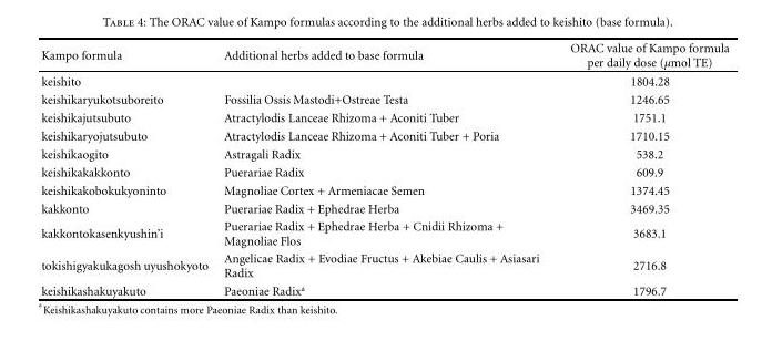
<table><thead><tr><td>Kampo formula</td><td>Additional herbs added to base formula</td><td>ORAC value of Kampo formula per daily dose (μmol TE)</td></tr></thead><tbody><tr><td>keishito</td><td></td><td>1804.28</td></tr><tr><td>keishikaryukotsuboreito</td><td>Fossilia Ossis Mastodi+Ostreae Testa</td><td>1246.65</td></tr><tr><td>keishikajutsubuto</td><td>Atractylodis Lanceae Rhizoma + Aconiti Tuber</td><td>1751.1</td></tr><tr><td>keishikaryojutsubuto</td><td>Atractylodis Lanceae Rhizoma + Aconiti Tuber + Poria</td><td>1710.15</td></tr><tr><td>keishikaogito</td><td>Astragali Radix</td><td>538.2</td></tr><tr><td>keishikakakkonto</td><td>Puerariae Radix</td><td>609.9</td></tr><tr><td>keishikakobokukyoninto</td><td>Magnoliae Cortex + Armeniacae Semen</td><td>1374.45</td></tr><tr><td>kakkonto</td><td>Puerariae Radix + Ephedrae Herba</td><td>3469.35</td></tr><tr><td>kakkontokasenkyushin’i</td><td>Puerariae Radix + Ephedrae Herba + Cnidii Rhizoma + Magnoliae Flos</td><td>3683.1</td></tr><tr><td>tokishigyakukagosh uyushokyoto</td><td>Angelicae Radix + Evodiae Fructus + Akebiae Caulis + Asiasari Radix</td><td>2716.8</td></tr><tr><td>keishikashakuyakuto</td><td>Paeoniae Radix<sup>a</sup></td><td>1796.7</td></tr></tbody></table>